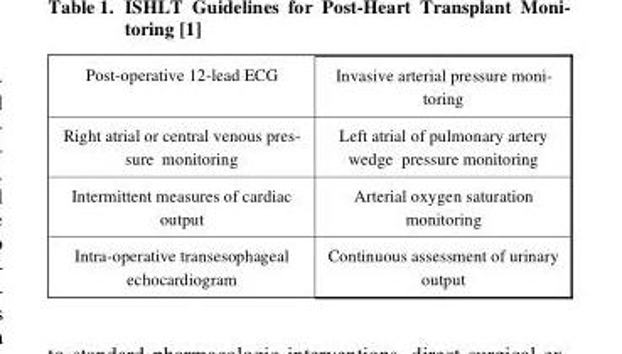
<table><tbody><tr><td>Post-operative 12-lead ECG</td><td>Invasive arterial pressure moni- toring</td></tr><tr><td>Right atrial or central venous pres- sure monitoring</td><td>Left atrial of pulmonary artery wedge pressure monitoring</td></tr><tr><td>Intermittent measures of cardiac output</td><td>Arterial oxygen saturation monitoring</td></tr><tr><td>Intra-operative transesophageal echocardiogram</td><td>Continuous assessment of urinary output</td></tr></tbody></table>